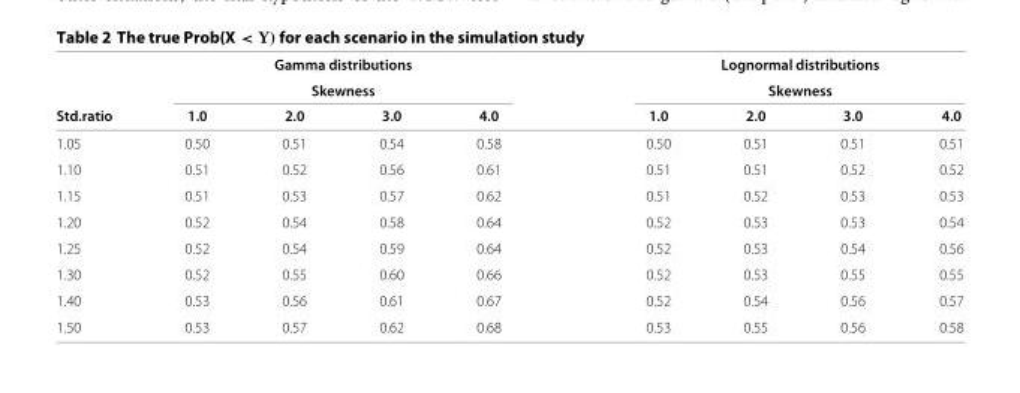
<table><thead><tr><td rowspan="3">Std.ratio</td><td rowspan="2" colspan="4">Gamma distributions Skewness</td><td rowspan="2" colspan="4">Lognormal distributions Skewness</td></tr><tr></tr><tr><td>1.0</td><td>2.0</td><td>3.0</td><td>4.0</td><td>1.0</td><td>2.0</td><td>3.0</td><td>4.0</td></tr></thead><tbody><tr><td>1.05</td><td>0.50</td><td>0.51</td><td>0.54</td><td>0.58</td><td>0.50</td><td>0.51</td><td>0.51</td><td>0.51</td></tr><tr><td>1.10</td><td>0.51</td><td>0.52</td><td>0.56</td><td>0.61</td><td>0.51</td><td>0.51</td><td>0.52</td><td>0.52</td></tr><tr><td>1.15</td><td>0.51</td><td>0.53</td><td>0.57</td><td>0.62</td><td>0.51</td><td>0.52</td><td>0.53</td><td>0.53</td></tr><tr><td>1.20</td><td>0.52</td><td>0.54</td><td>0.58</td><td>0.64</td><td>0.52</td><td>0.53</td><td>0.53</td><td>0.54</td></tr><tr><td>1.25</td><td>0.52</td><td>0.54</td><td>0.59</td><td>0.64</td><td>0.52</td><td>0.53</td><td>0.54</td><td>0.56</td></tr><tr><td>1.30</td><td>0.52</td><td>0.55</td><td>0.60</td><td>0.66</td><td>0.52</td><td>0.53</td><td>0.55</td><td>0.55</td></tr><tr><td>1.40</td><td>0.53</td><td>0.56</td><td>0.61</td><td>0.67</td><td>0.52</td><td>0.54</td><td>0.56</td><td>0.57</td></tr><tr><td>1.50</td><td>0.53</td><td>0.57</td><td>0.62</td><td>0.68</td><td>0.53</td><td>0.55</td><td>0.56</td><td>0.58</td></tr></tbody></table>